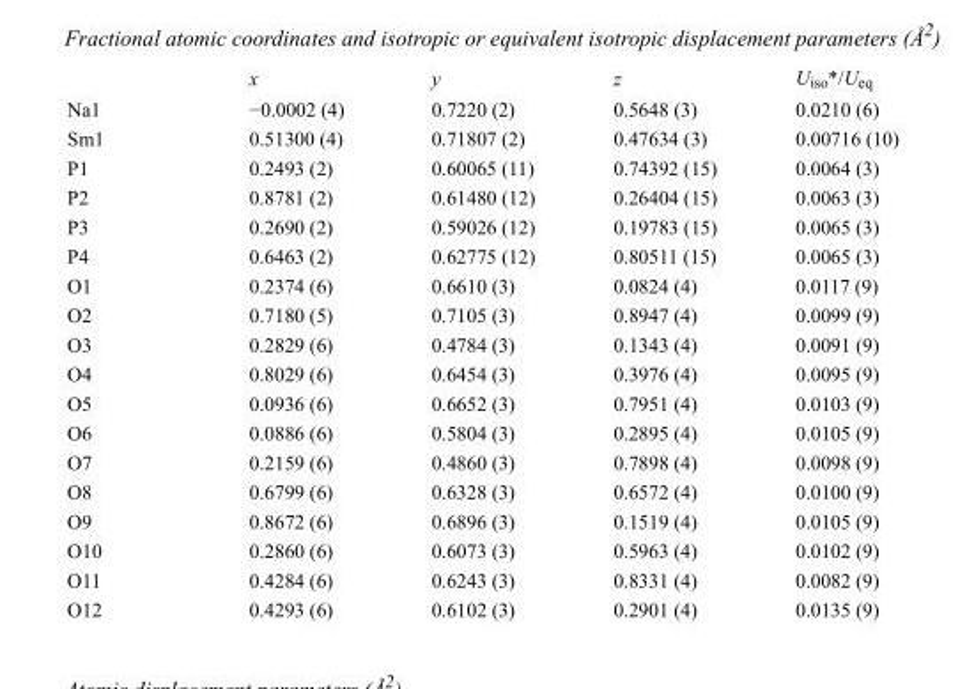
<table><thead><tr><td></td><td>x</td><td>y</td><td>z</td><td>U<sub>iso</sub>*/U<sub>eq</sub></td></tr></thead><tbody><tr><td>Na1</td><td>−0.0002 (4)</td><td>0.7220 (2)</td><td>0.5648 (3)</td><td>0.0210 (6)</td></tr><tr><td>Sm1</td><td>0.51300 (4)</td><td>0.71807 (2)</td><td>0.47634 (3)</td><td>0.00716 (10)</td></tr><tr><td>P1</td><td>0.2493 (2)</td><td>0.60065 (11)</td><td>0.74392 (15)</td><td>0.0064 (3)</td></tr><tr><td>P2</td><td>0.8781 (2)</td><td>0.61480 (12)</td><td>0.26404 (15)</td><td>0.0063 (3)</td></tr><tr><td>P3</td><td>0.2690 (2)</td><td>0.59026 (12)</td><td>0.19783 (15)</td><td>0.0065 (3)</td></tr><tr><td>P4</td><td>0.6463 (2)</td><td>0.62775 (12)</td><td>0.80511 (15)</td><td>0.0065 (3)</td></tr><tr><td>O1</td><td>0.2374 (6)</td><td>0.6610 (3)</td><td>0.0824 (4)</td><td>0.0117 (9)</td></tr><tr><td>O2</td><td>0.7180 (5)</td><td>0.7105 (3)</td><td>0.8947 (4)</td><td>0.0099 (9)</td></tr><tr><td>O3</td><td>0.2829 (6)</td><td>0.4784 (3)</td><td>0.1343 (4)</td><td>0.0091 (9)</td></tr><tr><td>O4</td><td>0.8029 (6)</td><td>0.6454 (3)</td><td>0.3976 (4)</td><td>0.0095 (9)</td></tr><tr><td>O5</td><td>0.0936 (6)</td><td>0.6652 (3)</td><td>0.7951 (4)</td><td>0.0103 (9)</td></tr><tr><td>O6</td><td>0.0886 (6)</td><td>0.5804 (3)</td><td>0.2895 (4)</td><td>0.0105 (9)</td></tr><tr><td>O7</td><td>0.2159 (6)</td><td>0.4860 (3)</td><td>0.7898 (4)</td><td>0.0098 (9)</td></tr><tr><td>O8</td><td>0.6799 (6)</td><td>0.6328 (3)</td><td>0.6572 (4)</td><td>0.0100 (9)</td></tr><tr><td>O9</td><td>0.8672 (6)</td><td>0.6896 (3)</td><td>0.1519 (4)</td><td>0.0105 (9)</td></tr><tr><td>O10</td><td>0.2860 (6)</td><td>0.6073 (3)</td><td>0.5963 (4)</td><td>0.0102 (9)</td></tr><tr><td>O11</td><td>0.4284 (6)</td><td>0.6243 (3)</td><td>0.8331 (4)</td><td>0.0082 (9)</td></tr><tr><td>O12</td><td>0.4293 (6)</td><td>0.6102 (3)</td><td>0.2901 (4)</td><td>0.0135 (9)</td></tr></tbody></table>